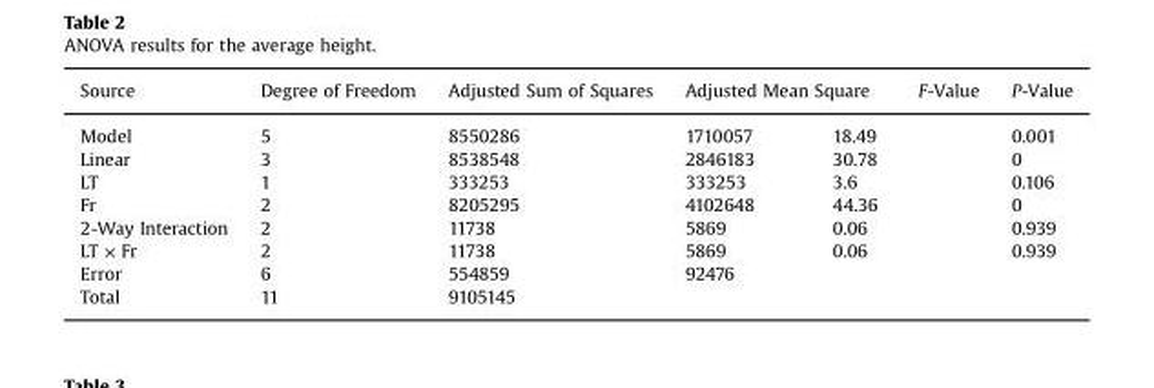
<table><thead><tr><td>Source</td><td>Degree of Freedom</td><td>Adjusted Sum of Squares</td><td colspan="2">Adjusted Mean Square</td><td>F-Value</td><td>P-Value</td></tr></thead><tbody><tr><td>Model</td><td>5</td><td>8550286</td><td>1710057</td><td colspan="2">18.49</td><td>0.001</td></tr><tr><td>Linear</td><td>3</td><td>8538548</td><td>2846183</td><td colspan="2">30.78</td><td>0</td></tr><tr><td>LT</td><td>1</td><td>333253</td><td>333253</td><td colspan="2">3.6</td><td>0.106</td></tr><tr><td>Fr</td><td>2</td><td>8205295</td><td>4102648</td><td colspan="2">44.36</td><td>0</td></tr><tr><td>2-Way Interaction</td><td>2</td><td>11738</td><td>5869</td><td colspan="2">0.06</td><td>0.939</td></tr><tr><td>LT × Fr</td><td>2</td><td>11738</td><td>5869</td><td colspan="2">0.06</td><td>0.939</td></tr><tr><td>Error</td><td>6</td><td>554859</td><td>92476</td><td colspan="2"></td><td></td></tr><tr><td>Total</td><td>11</td><td>9105145</td><td></td><td colspan="2"></td><td></td></tr></tbody></table>